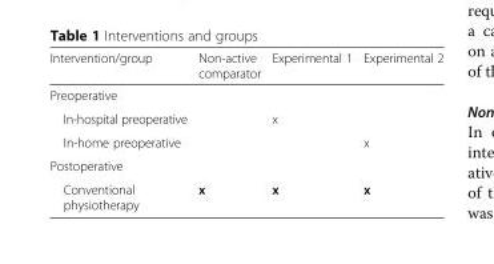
<table><thead><tr><td>Intervention/group</td><td>Non-active comparator</td><td>Experimental 1</td><td>Experimental 2</td></tr></thead><tbody><tr><td colspan="4">Preoperative</td></tr><tr><td>In-hospital preoperative</td><td></td><td>x</td><td></td></tr><tr><td>In-home preoperative</td><td></td><td></td><td>x</td></tr><tr><td colspan="4">Postoperative</td></tr><tr><td>Conventional physiotherapy</td><td>x</td><td>x</td><td>x</td></tr></tbody></table>